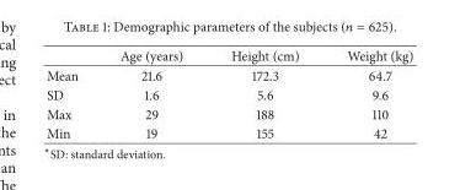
<table><thead><tr><td></td><td>Age (years)</td><td>Height (cm)</td><td>Weight (kg)</td></tr></thead><tbody><tr><td>Mean</td><td>21.6</td><td>172.3</td><td>64.7</td></tr><tr><td>SD</td><td>1.6</td><td>5.6</td><td>9.6</td></tr><tr><td>Max</td><td>29</td><td>188</td><td>110</td></tr><tr><td>Min</td><td>19</td><td>155</td><td>42</td></tr></tbody></table>